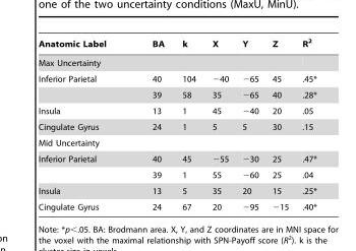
<table><thead><tr><td>Anatomic Label</td><td>BA</td><td>k</td><td>X</td><td>Y</td><td>Z</td><td>R<sup>2</sup></td></tr></thead><tbody><tr><td colspan="7">Max Uncertainty</td></tr><tr><td rowspan="2">Inferior Parietal</td><td>40</td><td>104</td><td>−40</td><td>−65</td><td>45</td><td>.45*</td></tr><tr><td>39</td><td>58</td><td>35</td><td>−65</td><td>40</td><td>.28*</td></tr><tr><td>Insula</td><td>13</td><td>1</td><td>45</td><td>−40</td><td>20</td><td>.05</td></tr><tr><td>Cingulate Gyrus</td><td>24</td><td>1</td><td>5</td><td>5</td><td>30</td><td>.15</td></tr><tr><td colspan="7">Mid Uncertainty</td></tr><tr><td rowspan="2">Inferior Parietal</td><td>40</td><td>45</td><td>−55</td><td>−30</td><td>25</td><td>.47*</td></tr><tr><td>39</td><td>1</td><td>55</td><td>−60</td><td>25</td><td>.04</td></tr><tr><td>Insula</td><td>13</td><td>5</td><td>35</td><td>20</td><td>15</td><td>.25*</td></tr><tr><td>Cingulate Gyrus</td><td>24</td><td>67</td><td>20</td><td>−95</td><td>−15</td><td>.40*</td></tr></tbody></table>